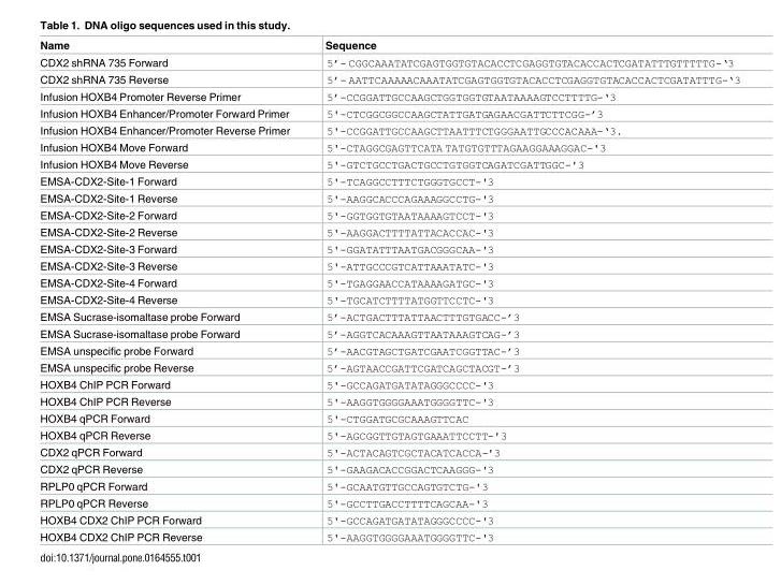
<table><thead><tr><td>Name</td><td>Sequence</td></tr></thead><tbody><tr><td>CDX2 shRNA 735 Forward</td><td>5’- CGGCAAATATCGAGTGGTGTACACCTCGAGGTGTACACCACTCGATATTTGTTTTTG-‘3</td></tr><tr><td>CDX2 shRNA 735 Reverse</td><td>5’- AATTCAAAAACAAATATCGAGTGGTGTACACCTCGAGGTGTACACCACTCGATATTTG-‘3</td></tr><tr><td>Infusion HOXB4 Promoter Reverse Primer</td><td>5’-CCGGATTGCCAAGCTGGTGGTGTAATAAAAGTCCTTTTG-‘3</td></tr><tr><td>Infusion HOXB4 Enhancer/Promoter Forward Primer</td><td>5&#x27;-CTCGGCGGCCAAGCTATTGATGAGAACGATTCTTCGG-’3</td></tr><tr><td>Infusion HOXB4 Enhancer/Promoter Reverse Primer</td><td>5&#x27;-CCGGATTGCCAAGCTTAATTTCTGGGAATTGCCCACAAA-‘3.</td></tr><tr><td>Infusion HOXB4 Move Forward</td><td>5&#x27;-CTAGGCGAGTTCATA TATGTGTTTAGAAGGAAAGGAC-&#x27;3</td></tr><tr><td>Infusion HOXB4 Move Reverse</td><td>5&#x27;-GTCTGCCTGACTGCCTGTGGTCAGATCGATTGGC-&#x27;3</td></tr><tr><td>EMSA-CDX2-Site-1 Forward</td><td>5&#x27;-TCAGGCCTTTCTGGGTGCCT-&#x27;3</td></tr><tr><td>EMSA-CDX2-Site-1 Reverse</td><td>5&#x27;-AAGGCACCCAGAAAGGCCTG-&#x27;3</td></tr><tr><td>EMSA-CDX2-Site-2 Forward</td><td>5&#x27;-GGTGGTGTAATAAAAGTCCT-&#x27;3</td></tr><tr><td>EMSA-CDX2-Site-2 Reverse</td><td>5&#x27;-AAGGACTTTTATTACACCAC-&#x27;3</td></tr><tr><td>EMSA-CDX2-Site-3 Forward</td><td>5&#x27;-GGATATTTAATGACGGGCAA-&#x27;3</td></tr><tr><td>EMSA-CDX2-Site-3 Reverse</td><td>5&#x27;-ATTGCCCGTCATTAAATATC-&#x27;3</td></tr><tr><td>EMSA-CDX2-Site-4 Forward</td><td>5&#x27;-TGAGGAACCATAAAAGATGC-&#x27;3</td></tr><tr><td>EMSA-CDX2-Site-4 Reverse</td><td>5&#x27;-TGCATCTTTTATGGTTCCTC-&#x27;3</td></tr><tr><td>EMSA Sucrase-isomaltase probe Forward</td><td>5’-ACTGACTTTATTAACTTTGTGACC-’3</td></tr><tr><td>EMSA Sucrase-isomaltase probe Forward</td><td>5’-AGGTCACAAAGTTAATAAAGTCAG-’3</td></tr><tr><td>EMSA unspecific probe Forward</td><td>5’-AACGTAGCTGATCGAATCGGTTAC-’3</td></tr><tr><td>EMSA unspecific probe Reverse</td><td>5’-AGTAACCGATTCGATCAGCTACGT-’3</td></tr><tr><td>HOXB4 ChIP PCR Forward</td><td>5&#x27;-GCCAGATGATATAGGGCCCC-&#x27;3</td></tr><tr><td>HOXB4 ChIP PCR Reverse</td><td>5&#x27;-AAGGTGGGGAAATGGGGTTC-&#x27;3</td></tr><tr><td>HOXB4 qPCR Forward</td><td>5&#x27;-CTGGATGCGCAAAGTTCAC</td></tr><tr><td>HOXB4 qPCR Reverse</td><td>5&#x27;-AGCGGTTGTAGTGAAATTCCTT-&#x27;3</td></tr><tr><td>CDX2 qPCR Forward</td><td>5&#x27;-ACTACAGTCGCTACATCACCA-&#x27;3</td></tr><tr><td>CDX2 qPCR Reverse</td><td>5&#x27;-GAAGACACCGGACTCAAGGG-&#x27;3</td></tr><tr><td>RPLP0 qPCR Forward</td><td>5&#x27;-GCAATGTTGCCAGTGTCTG-&#x27;3</td></tr><tr><td>RPLP0 qPCR Reverse</td><td>5&#x27;-GCCTTGACCTTTTCAGCAA-&#x27;3</td></tr><tr><td>HOXB4 CDX2 ChIP PCR Forward</td><td>5&#x27;-GCCAGATGATATAGGGCCCC-&#x27;3</td></tr><tr><td>HOXB4 CDX2 ChIP PCR Reverse</td><td>5&#x27;-AAGGTGGGGAAATGGGGTTC-&#x27;3</td></tr></tbody></table>